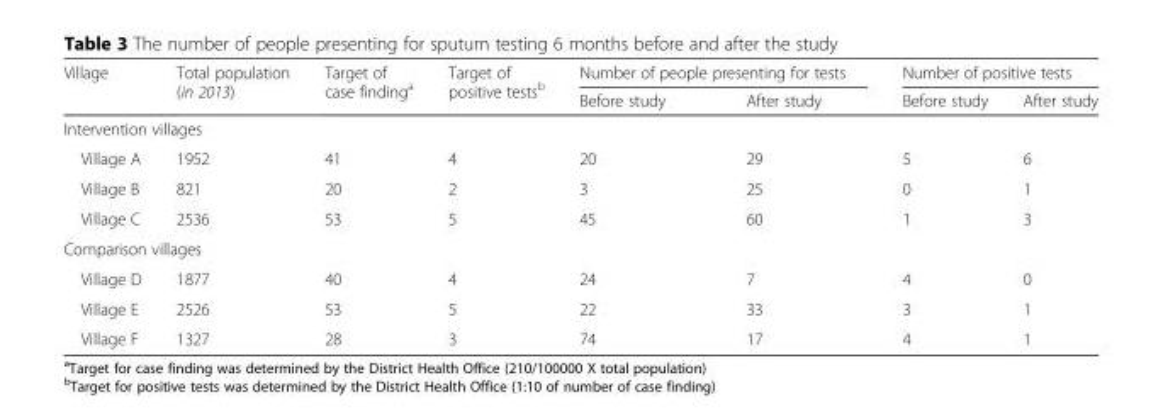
<table><thead><tr><td rowspan="2">Village</td><td rowspan="2">Total population (in 2013)</td><td rowspan="2">Target of case finding<sup>a</sup></td><td rowspan="2">Target of positive tests<sup>b</sup></td><td colspan="2">Number of people presenting for tests</td><td colspan="2">Number of positive tests</td></tr><tr><td>Before study</td><td>After study</td><td>Before study</td><td>After study</td></tr></thead><tbody><tr><td colspan="8">Intervention villages</td></tr><tr><td>Village A</td><td>1952</td><td>41</td><td>4</td><td>20</td><td>29</td><td>5</td><td>6</td></tr><tr><td>Village B</td><td>821</td><td>20</td><td>2</td><td>3</td><td>25</td><td>0</td><td>1</td></tr><tr><td>Village C</td><td>2536</td><td>53</td><td>5</td><td>45</td><td>60</td><td>1</td><td>3</td></tr><tr><td colspan="8">Comparison villages</td></tr><tr><td>Village D</td><td>1877</td><td>40</td><td>4</td><td>24</td><td>7</td><td>4</td><td>0</td></tr><tr><td>Village E</td><td>2526</td><td>53</td><td>5</td><td>22</td><td>33</td><td>3</td><td>1</td></tr><tr><td>Village F</td><td>1327</td><td>28</td><td>3</td><td>74</td><td>17</td><td>4</td><td>1</td></tr></tbody></table>